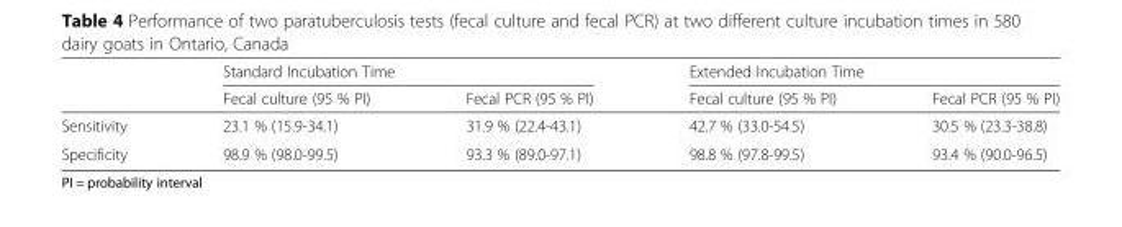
<table><thead><tr><td rowspan="2"></td><td colspan="2">Standard Incubation Time</td><td colspan="2">Extended Incubation Time</td></tr><tr><td>Fecal culture (95 % PI)</td><td>Fecal PCR (95 % PI)</td><td>Fecal culture (95 % PI)</td><td>Fecal PCR (95 % PI)</td></tr></thead><tbody><tr><td>Sensitivity</td><td>23.1 % (15.9-34.1)</td><td>31.9 % (22.4-43.1)</td><td>42.7 % (33.0-54.5)</td><td>30.5 % (23.3-38.8)</td></tr><tr><td>Specificity</td><td>98.9 % (98.0-99.5)</td><td>93.3 % (89.0-97.1)</td><td>98.8 % (97.8-99.5)</td><td>93.4 % (90.0-96.5)</td></tr></tbody></table>